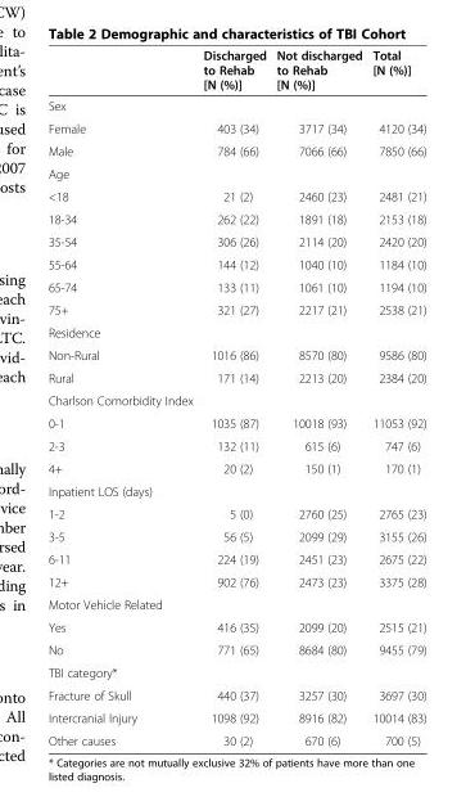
<table><thead><tr><td></td><td>Discharged to Rehab [N (%)]</td><td>Not discharged to Rehab [N (%)]</td><td>Total [N (%)]</td></tr></thead><tbody><tr><td colspan="4">Sex</td></tr><tr><td>Female</td><td>403 (34)</td><td>3717 (34)</td><td>4120 (34)</td></tr><tr><td>Male</td><td>784 (66)</td><td>7066 (66)</td><td>7850 (66)</td></tr><tr><td colspan="4">Age</td></tr><tr><td>&lt;18</td><td>21 (2)</td><td>2460 (23)</td><td>2481 (21)</td></tr><tr><td>18-34</td><td>262 (22)</td><td>1891 (18)</td><td>2153 (18)</td></tr><tr><td>35-54</td><td>306 (26)</td><td>2114 (20)</td><td>2420 (20)</td></tr><tr><td>55-64</td><td>144 (12)</td><td>1040 (10)</td><td>1184 (10)</td></tr><tr><td>65-74</td><td>133 (11)</td><td>1061 (10)</td><td>1194 (10)</td></tr><tr><td>75+</td><td>321 (27)</td><td>2217 (21)</td><td>2538 (21)</td></tr><tr><td colspan="4">Residence</td></tr><tr><td>Non-Rural</td><td>1016 (86)</td><td>8570 (80)</td><td>9586 (80)</td></tr><tr><td>Rural</td><td>171 (14)</td><td>2213 (20)</td><td>2384 (20)</td></tr><tr><td colspan="4">Charlson Comorbidity Index</td></tr><tr><td>0-1</td><td>1035 (87)</td><td>10018 (93)</td><td>11053 (92)</td></tr><tr><td>2-3</td><td>132 (11)</td><td>615 (6)</td><td>747 (6)</td></tr><tr><td>4+</td><td>20 (2)</td><td>150 (1)</td><td>170 (1)</td></tr><tr><td colspan="4">Inpatient LOS (days)</td></tr><tr><td>1-2</td><td>5 (0)</td><td>2760 (25)</td><td>2765 (23)</td></tr><tr><td>3-5</td><td>56 (5)</td><td>2099 (29)</td><td>3155 (26)</td></tr><tr><td>6-11</td><td>224 (19)</td><td>2451 (23)</td><td>2675 (22)</td></tr><tr><td>12+</td><td>902 (76)</td><td>2473 (23)</td><td>3375 (28)</td></tr><tr><td colspan="4">Motor Vehicle Related</td></tr><tr><td>Yes</td><td>416 (35)</td><td>2099 (20)</td><td>2515 (21)</td></tr><tr><td>No</td><td>771 (65)</td><td>8684 (80)</td><td>9455 (79)</td></tr><tr><td colspan="4">TBI category*</td></tr><tr><td>Fracture of Skull</td><td>440 (37)</td><td>3257 (30)</td><td>3697 (30)</td></tr><tr><td>Intercranial Injury</td><td>1098 (92)</td><td>8916 (82)</td><td>10014 (83)</td></tr><tr><td>Other causes</td><td>30 (2)</td><td>670 (6)</td><td>700 (5)</td></tr></tbody></table>